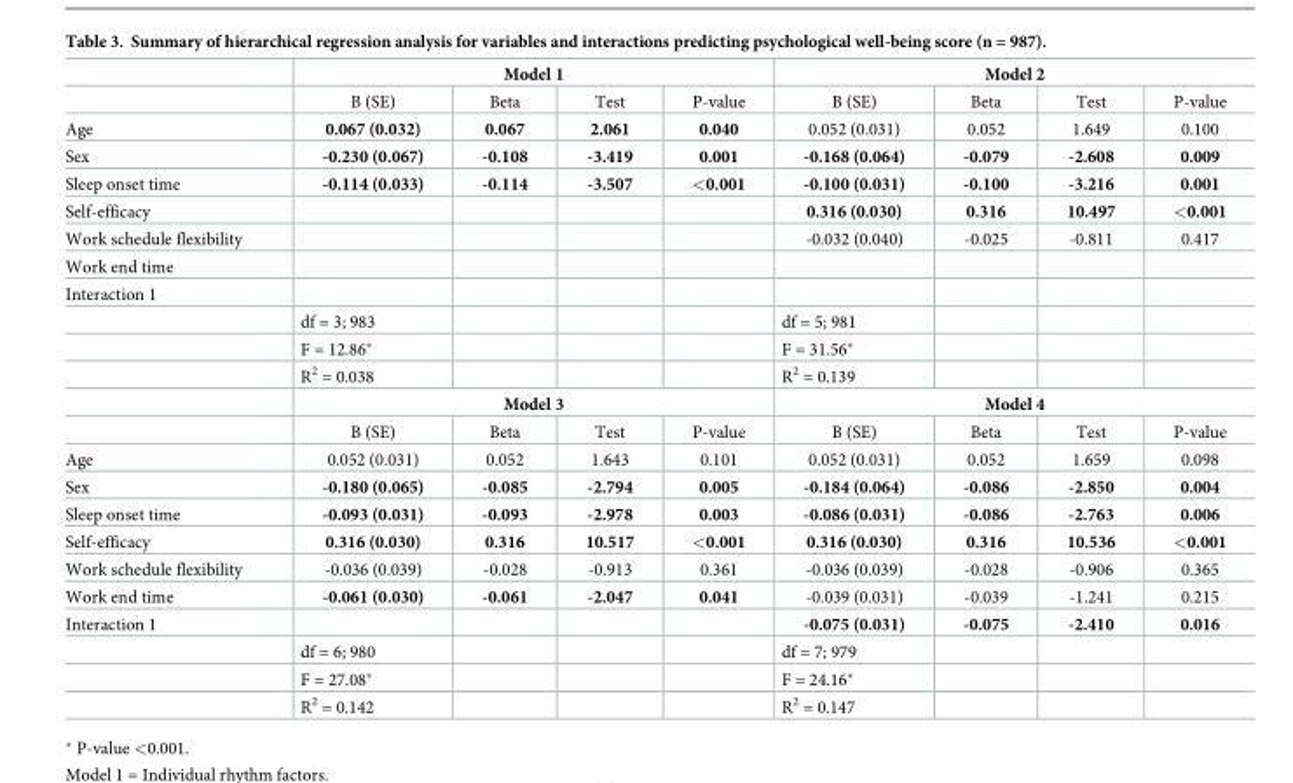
<table><thead><tr><td rowspan="2"></td><td colspan="4">Model 1</td><td colspan="4">Model 2</td></tr><tr><td>B (SE)</td><td>Beta</td><td>Test</td><td>P-value</td><td>B (SE)</td><td>Beta</td><td>Test</td><td>P-value</td></tr></thead><tbody><tr><td>Age</td><td>0.067 (0.032)</td><td>0.067</td><td>2.061</td><td>0.040</td><td>0.052 (0.031)</td><td>0.052</td><td>1.649</td><td>0.100</td></tr><tr><td>Sex</td><td>-0.230 (0.067)</td><td>-0.108</td><td>-3.419</td><td>0.001</td><td>-0.168 (0.064)</td><td>-0.079</td><td>-2.608</td><td>0.009</td></tr><tr><td>Sleep onset time</td><td>-0.114 (0.033)</td><td>-0.114</td><td>-3.507</td><td>&lt;0.001</td><td>-0.100 (0.031)</td><td>-0.100</td><td>-3.216</td><td>0.001</td></tr><tr><td>Self-efficacy</td><td></td><td></td><td></td><td></td><td>0.316 (0.030)</td><td>0.316</td><td>10.497</td><td>&lt;0.001</td></tr><tr><td>Work schedule flexibility</td><td></td><td></td><td></td><td></td><td>-0.032 (0.040)</td><td>-0.025</td><td>-0.811</td><td>0.417</td></tr><tr><td colspan="9">Work end time</td></tr><tr><td colspan="9">Interaction 1</td></tr><tr><td></td><td>df = 3; 983</td><td></td><td></td><td></td><td>df = 5; 981</td><td></td><td></td><td></td></tr><tr><td></td><td>F = 12.86*</td><td></td><td></td><td></td><td>F = 31.56*</td><td></td><td></td><td></td></tr><tr><td></td><td>R<sup>2</sup> = 0.038</td><td></td><td></td><td></td><td>R<sup>2</sup> = 0.139</td><td></td><td></td><td></td></tr><tr><td></td><td colspan="4">Model 3</td><td colspan="4">Model 4</td></tr><tr><td></td><td>B (SE)</td><td>Beta</td><td>Test</td><td>P-value</td><td>B (SE)</td><td>Beta</td><td>Test</td><td>P-value</td></tr><tr><td>Age</td><td>0.052 (0.031)</td><td>0.052</td><td>1.643</td><td>0.101</td><td>0.052 (0.031)</td><td>0.052</td><td>1.659</td><td>0.098</td></tr><tr><td>Sex</td><td>-0.180 (0.065)</td><td>-0.085</td><td>-2.794</td><td>0.005</td><td>-0.184 (0.064)</td><td>-0.086</td><td>-2.850</td><td>0.004</td></tr><tr><td>Sleep onset time</td><td>-0.093 (0.031)</td><td>-0.093</td><td>-2.978</td><td>0.003</td><td>-0.086 (0.031)</td><td>-0.086</td><td>-2.763</td><td>0.006</td></tr><tr><td>Self-efficacy</td><td>0.316 (0.030)</td><td>0.316</td><td>10.517</td><td>&lt;0.001</td><td>0.316 (0.030)</td><td>0.316</td><td>10.536</td><td>&lt;0.001</td></tr><tr><td>Work schedule flexibility</td><td>-0.036 (0.039)</td><td>-0.028</td><td>-0.913</td><td>0.361</td><td>-0.036 (0.039)</td><td>-0.028</td><td>-0.906</td><td>0.365</td></tr><tr><td>Work end time</td><td>-0.061 (0.030)</td><td>-0.061</td><td>-2.047</td><td>0.041</td><td>-0.039 (0.031)</td><td>-0.039</td><td>-1.241</td><td>0.215</td></tr><tr><td rowspan="4">Interaction 1</td><td></td><td></td><td></td><td></td><td>-0.075 (0.031)</td><td>-0.075</td><td>-2.410</td><td>0.016</td></tr><tr><td>df = 6; 980</td><td></td><td></td><td></td><td>df = 7; 979</td><td></td><td></td><td></td></tr><tr><td>F = 27.08*</td><td></td><td></td><td></td><td>F = 24.16*</td><td></td><td></td><td></td></tr><tr><td>R<sup>2</sup> = 0.142</td><td></td><td></td><td></td><td>R<sup>2</sup> = 0.147</td><td></td><td></td><td></td></tr></tbody></table>